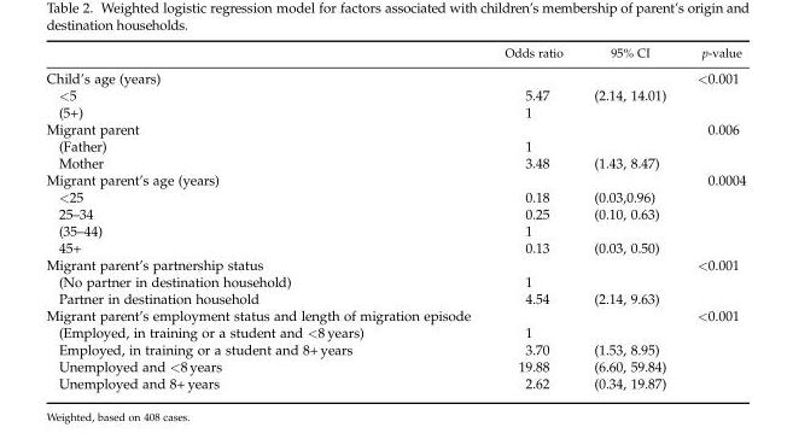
<table><thead><tr><td></td><td>Odds ratio</td><td>95% CI</td><td>p-value</td></tr></thead><tbody><tr><td>Child’s age (years)</td><td></td><td></td><td>&lt;0.001</td></tr><tr><td>&lt;5</td><td>5.47</td><td>(2.14, 14.01)</td><td></td></tr><tr><td>(5+)</td><td>1</td><td></td><td></td></tr><tr><td>Migrant parent</td><td></td><td></td><td>0.006</td></tr><tr><td>(Father)</td><td>1</td><td></td><td></td></tr><tr><td>Mother</td><td>3.48</td><td>(1.43, 8.47)</td><td></td></tr><tr><td>Migrant parent’s age (years)</td><td></td><td></td><td>0.0004</td></tr><tr><td>&lt;25</td><td>0.18</td><td>(0.03,0.96)</td><td></td></tr><tr><td>25–34</td><td>0.25</td><td>(0.10, 0.63)</td><td></td></tr><tr><td>(35–44)</td><td>1</td><td></td><td></td></tr><tr><td>45+</td><td>0.13</td><td>(0.03, 0.50)</td><td></td></tr><tr><td>Migrant parent’s partnership status</td><td></td><td></td><td>&lt;0.001</td></tr><tr><td>(No partner in destination household)</td><td>1</td><td></td><td></td></tr><tr><td>Partner in destination household</td><td>4.54</td><td>(2.14, 9.63)</td><td></td></tr><tr><td>Migrant parent’s employment status and length of migration episode</td><td></td><td></td><td>&lt;0.001</td></tr><tr><td>(Employed, in training or a student and &lt;8 years)</td><td>1</td><td></td><td></td></tr><tr><td>Employed, in training or a student and 8+ years</td><td>3.70</td><td>(1.53, 8.95)</td><td></td></tr><tr><td>Unemployed and &lt;8 years</td><td>19.88</td><td>(6.60, 59.84)</td><td></td></tr><tr><td>Unemployed and 8+ years</td><td>2.62</td><td>(0.34, 19.87)</td><td></td></tr></tbody></table>